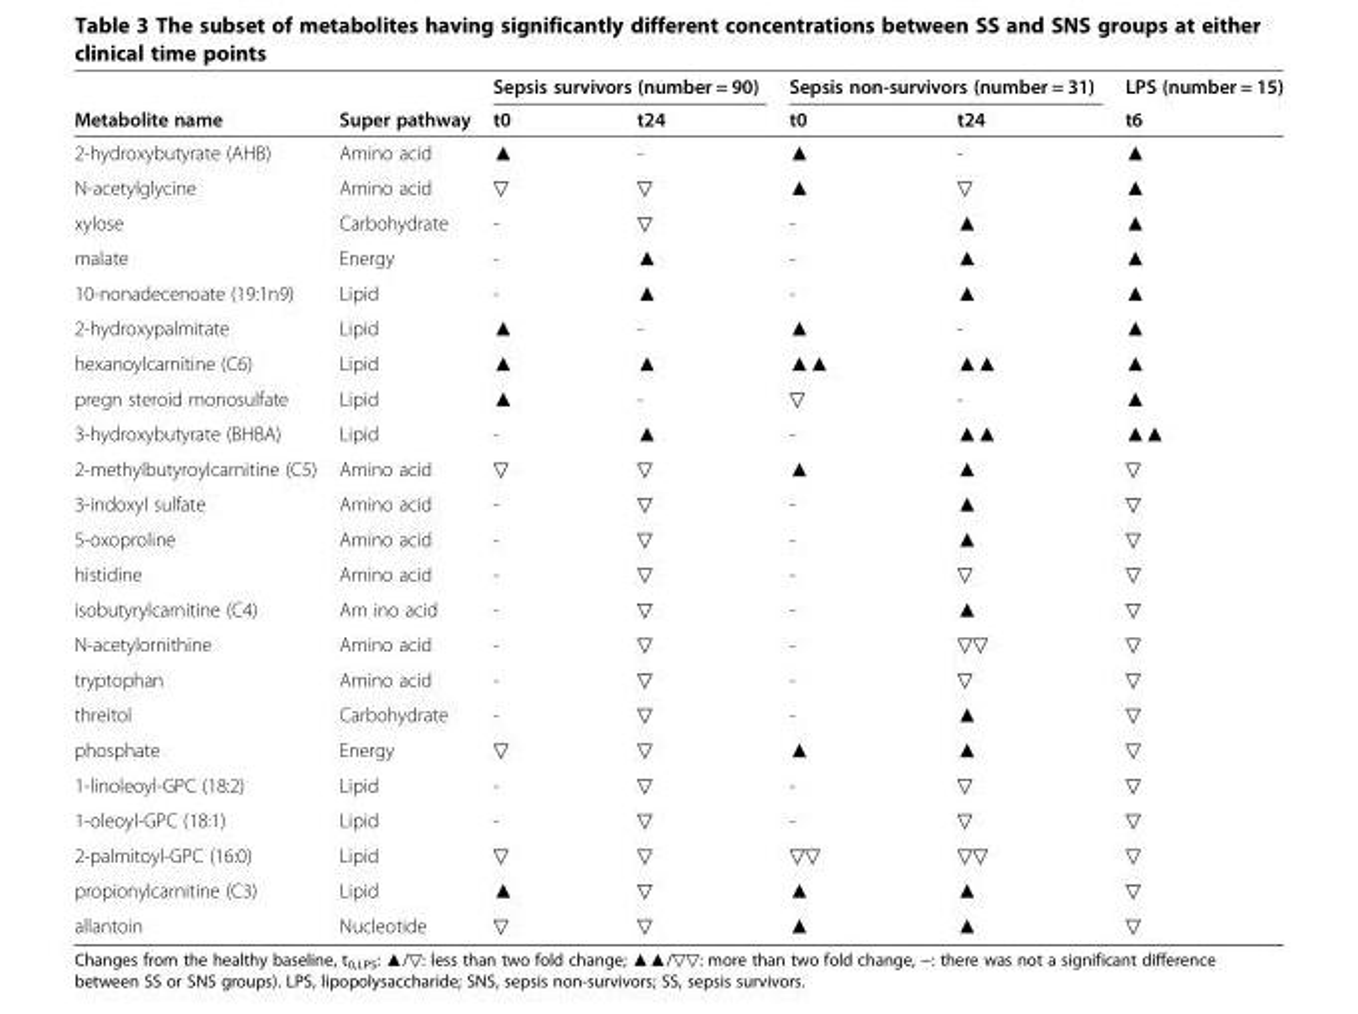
<table><thead><tr><td rowspan="2">Metabolite name</td><td rowspan="2">Super pathway</td><td colspan="2">Sepsis survivors (number = 90)</td><td colspan="2">Sepsis non-survivors (number = 31)</td><td rowspan="2">LPS (number = 15) t6</td></tr><tr><td>t0</td><td>t24</td><td>t0</td><td>t24</td></tr></thead><tbody><tr><td>2-hydroxybutyrate (AHB)</td><td>Amino acid</td><td>▲</td><td>-</td><td>▲</td><td>-</td><td>▲</td></tr><tr><td>N-acetylglycine</td><td>Amino acid</td><td>▽</td><td>▽</td><td>▲</td><td>▽</td><td>▲</td></tr><tr><td>xylose</td><td>Carbohydrate</td><td>-</td><td>▽</td><td>-</td><td>▲</td><td>▲</td></tr><tr><td>malate</td><td>Energy</td><td>-</td><td>▲</td><td>-</td><td>▲</td><td>▲</td></tr><tr><td>10-nonadecenoate (19:1n9)</td><td>Lipid</td><td>-</td><td>▲</td><td>-</td><td>▲</td><td>▲</td></tr><tr><td>2-hydroxypalmitate</td><td>Lipid</td><td>▲</td><td>-</td><td>▲</td><td>-</td><td>▲</td></tr><tr><td>hexanoylcarnitine (C6)</td><td>Lipid</td><td>▲</td><td>▲</td><td>▲▲</td><td>▲▲</td><td>▲</td></tr><tr><td>pregn steroid monosulfate</td><td>Lipid</td><td>▲</td><td>-</td><td>▽</td><td>-</td><td>▲</td></tr><tr><td>3-hydroxybutyrate (BHBA)</td><td>Lipid</td><td>-</td><td>▲</td><td>-</td><td>▲▲</td><td>▲▲</td></tr><tr><td>2-methylbutyroylcarnitine (C5)</td><td>Amino acid</td><td>▽</td><td>▽</td><td>▲</td><td>▲</td><td>▽</td></tr><tr><td>3-indoxyl sulfate</td><td>Amino acid</td><td>-</td><td>▽</td><td>-</td><td>▲</td><td>▽</td></tr><tr><td>5-oxoproline</td><td>Amino acid</td><td>-</td><td>▽</td><td>-</td><td>▲</td><td>▽</td></tr><tr><td>histidine</td><td>Amino acid</td><td>-</td><td>▽</td><td>-</td><td>▽</td><td>▽</td></tr><tr><td>isobutyrylcarnitine (C4)</td><td>Am ino acid</td><td>-</td><td>▽</td><td>-</td><td>▲</td><td>▽</td></tr><tr><td>N-acetylornithine</td><td>Amino acid</td><td>-</td><td>▽</td><td>-</td><td>▽▽</td><td>▽</td></tr><tr><td>tryptophan</td><td>Amino acid</td><td>-</td><td>▽</td><td>-</td><td>▽</td><td>▽</td></tr><tr><td>threitol</td><td>Carbohydrate</td><td>-</td><td>▽</td><td>-</td><td>▲</td><td>▽</td></tr><tr><td>phosphate</td><td>Energy</td><td>▽</td><td>▽</td><td>▲</td><td>▲</td><td>▽</td></tr><tr><td>1-linoleoyl-GPC (18:2)</td><td>Lipid</td><td>-</td><td>▽</td><td>-</td><td>▽</td><td>▽</td></tr><tr><td>1-oleoyl-GPC (18:1)</td><td>Lipid</td><td>-</td><td>▽</td><td>-</td><td>▽</td><td>▽</td></tr><tr><td>2-palmitoyl-GPC (16:0)</td><td>Lipid</td><td>▽</td><td>▽</td><td>▽▽</td><td>▽▽</td><td>▽</td></tr><tr><td>propionylcarnitine (C3)</td><td>Lipid</td><td>▲</td><td>▽</td><td>▲</td><td>▲</td><td>▽</td></tr><tr><td>allantoin</td><td>Nucleotide</td><td>▽</td><td>▽</td><td>▲</td><td>▲</td><td>▽</td></tr></tbody></table>